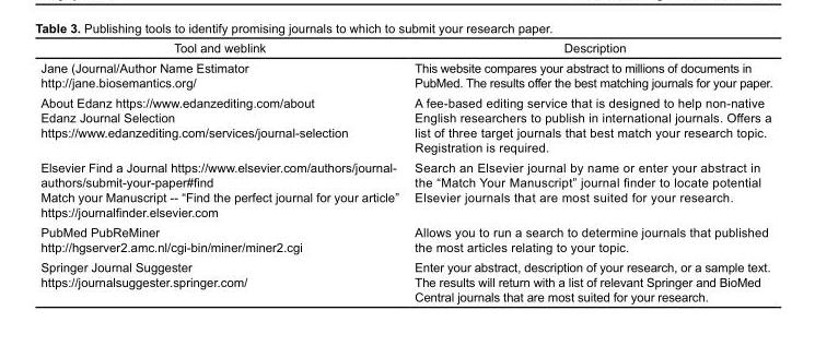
<table><thead><tr><td>Tool and weblink</td><td>Description</td></tr></thead><tbody><tr><td>Jane (Journal/Author Name Estimator http://jane.biosemantics.org/</td><td>This website compares your abstract to millions of documents in PubMed. The results offer the best matching journals for your paper.</td></tr><tr><td>About Edanz https://www.edanzediting.com/about Edanz Journal Selection https://www.edanzediting.com/services/journal-selection</td><td>A fee-based editing service that is designed to help non-native English researchers to publish in international journals. Offers a list of three target journals that best match your research topic. Registration is required.</td></tr><tr><td>Elsevier Find a Journal https://www.elsevier.com/authors/journal- authors/submit-your-paper#find Match your Manuscript -- “Find the perfect journal for your article” https://journalfinder.elsevier.com</td><td>Search an Elsevier journal by name or enter your abstract in the “Match Your Manuscript” journal finder to locate potential Elsevier journals that are most suited for your research.</td></tr><tr><td>PubMed PubReMiner http://hgserver2.amc.nl/cgi-bin/miner/miner2.cgi</td><td>Allows you to run a search to determine journals that published the most articles relating to your topic.</td></tr><tr><td>Springer Journal Suggester https://journalsuggester.springer.com/</td><td>Enter your abstract, description of your research, or a sample text. The results will return with a list of relevant Springer and BioMed Central journals that are most suited for your research.</td></tr></tbody></table>